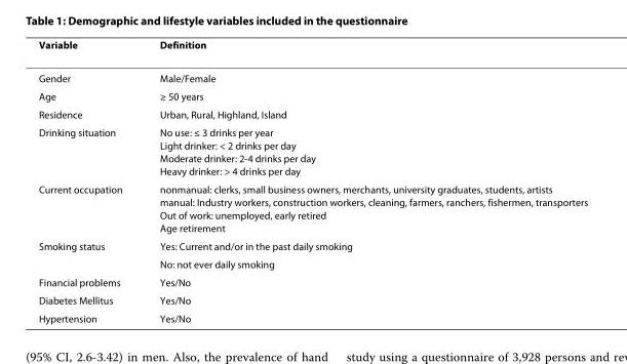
<table><thead><tr><td>Variable</td><td>Definition</td></tr></thead><tbody><tr><td>Gender</td><td>Male/Female</td></tr><tr><td>Age</td><td>≥ 50 years</td></tr><tr><td>Residence</td><td>Urban, Rural, Highland, Island</td></tr><tr><td>Drinking situation</td><td>No use: ≤ 3 drinks per year Light drinker: &lt; 2 drinks per day Moderate drinker: 2-4 drinks per day Heavy drinker: &gt; 4 drinks per day</td></tr><tr><td>Current occupation</td><td>nonmanual: clerks, small business owners, merchants, university graduates, students, artists manual: Industry workers, construction workers, cleaning, farmers, ranchers, fishermen, transporters Out of work: unemployed, early retired Age retirement</td></tr><tr><td rowspan="2">Smoking status</td><td>Yes: Current and/or in the past daily smoking</td></tr><tr><td>No: not ever daily smoking</td></tr><tr><td>Financial problems</td><td>Yes/No</td></tr><tr><td>Diabetes Mellitus</td><td>Yes/No</td></tr><tr><td>Hypertension</td><td>Yes/No</td></tr></tbody></table>